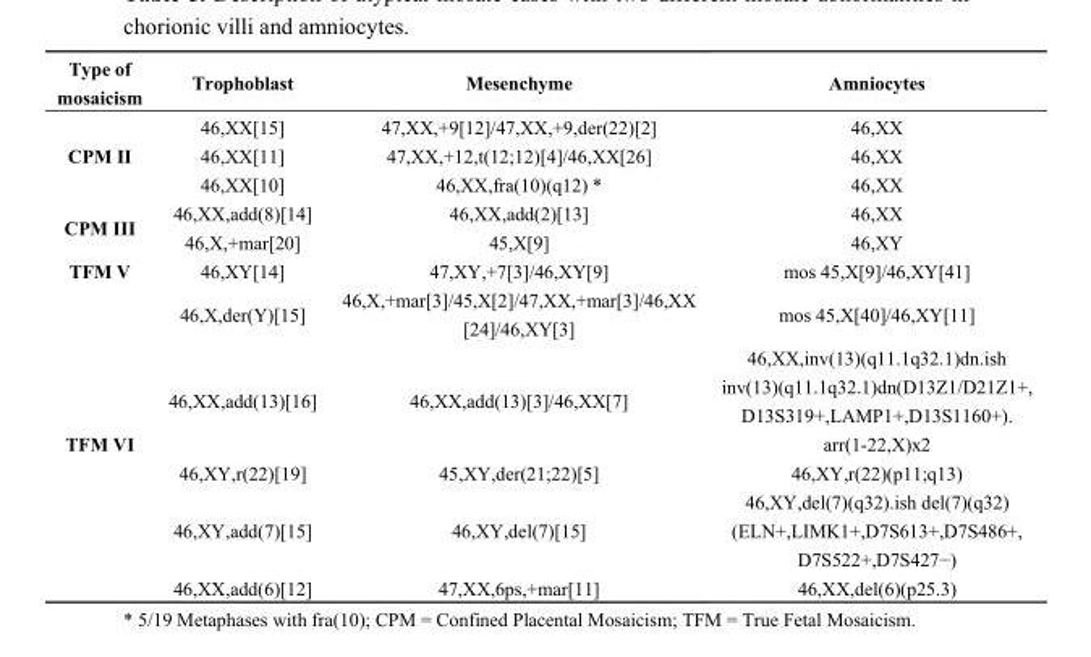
<table><thead><tr><td>Type of mosaicism</td><td>Trophoblast</td><td>Mesenchyme</td><td>Amniocytes</td></tr></thead><tbody><tr><td rowspan="3">CPM II</td><td>46,XX[15]</td><td>47,XX,+9[12]/47,XX,+9,der(22)[2]</td><td>46,XX</td></tr><tr><td>46,XX[11]</td><td>47,XX,+12,t(12;12)[4]/46,XX[26]</td><td>46,XX</td></tr><tr><td>46,XX[10]</td><td>46,XX,fra(10)(q12) *</td><td>46,XX</td></tr><tr><td rowspan="2">CPM III</td><td>46,XX,add(8)[14]</td><td>46,XX,add(2)[13]</td><td>46,XX</td></tr><tr><td>46,X,+mar[20]</td><td>45,X[9]</td><td>46,XY</td></tr><tr><td>TFM V</td><td>46,XY[14]</td><td>47,XY,+7[3]/46,XY[9]</td><td>mos 45,X[9]/46,XY[41]</td></tr><tr><td rowspan="5">TFM VI</td><td>46,X,der(Y)[15]</td><td>46,X,+mar[3]/45,X[2]/47,XX,+mar[3]/46,XX [24]/46,XY[3]</td><td>mos 45,X[40]/46,XY[11]</td></tr><tr><td>46,XX,add(13)[16]</td><td>46,XX,add(13)[3]/46,XX[7]</td><td>46,XX,inv(13)(q11.1q32.1)dn.ish inv(13)(q11.1q32.1)dn(D13Z1/D21Z1+, D13S319+,LAMP1+,D13S1160+). arr(1-22,X)x2</td></tr><tr><td>46,XY,r(22)[19]</td><td>45,XY,der(21;22)[5]</td><td>46,XY,r(22)(p11;q13)</td></tr><tr><td>46,XY,add(7)[15]</td><td>46,XY,del(7)[15]</td><td>46,XY,del(7)(q32).ish del(7)(q32) (ELN+,LIMK1+,D7S613+,D7S486+, D7S522+,D7S427−)</td></tr><tr><td>46,XX,add(6)[12]</td><td>47,XX,6ps,+mar[11]</td><td>46,XX,del(6)(p25.3)</td></tr></tbody></table>